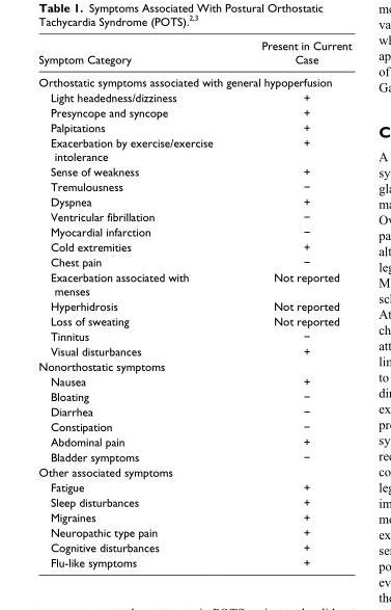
<table><thead><tr><td>Symptom Category</td><td>Present in Current Case</td></tr></thead><tbody><tr><td colspan="2">Orthostatic symptoms associated with general hypoperfusion</td></tr><tr><td>Light headedness/dizziness</td><td>+</td></tr><tr><td>Presyncope and syncope</td><td>+</td></tr><tr><td>Palpitations</td><td>+</td></tr><tr><td>Exacerbation by exercise/exercise intolerance</td><td>+</td></tr><tr><td>Sense of weakness</td><td>+</td></tr><tr><td>Tremulousness</td><td>−</td></tr><tr><td>Dyspnea</td><td>+</td></tr><tr><td>Ventricular fibrillation</td><td>−</td></tr><tr><td>Myocardial infarction</td><td>−</td></tr><tr><td>Cold extremities</td><td>+</td></tr><tr><td>Chest pain</td><td>−</td></tr><tr><td>Exacerbation associated with menses</td><td>Not reported</td></tr><tr><td>Hyperhidrosis</td><td>Not reported</td></tr><tr><td>Loss of sweating</td><td>Not reported</td></tr><tr><td>Tinnitus</td><td>−</td></tr><tr><td>Visual disturbances</td><td>+</td></tr><tr><td colspan="2">Nonorthostatic symptoms</td></tr><tr><td>Nausea</td><td>+</td></tr><tr><td>Bloating</td><td>−</td></tr><tr><td>Diarrhea</td><td>−</td></tr><tr><td>Constipation</td><td>−</td></tr><tr><td>Abdominal pain</td><td>+</td></tr><tr><td>Bladder symptoms</td><td>−</td></tr><tr><td colspan="2">Other associated symptoms</td></tr><tr><td>Fatigue</td><td>+</td></tr><tr><td>Sleep disturbances</td><td>+</td></tr><tr><td>Migraines</td><td>+</td></tr><tr><td>Neuropathic type pain</td><td>+</td></tr><tr><td>Cognitive disturbances</td><td>+</td></tr><tr><td>Flu-like symptoms</td><td>+</td></tr></tbody></table>